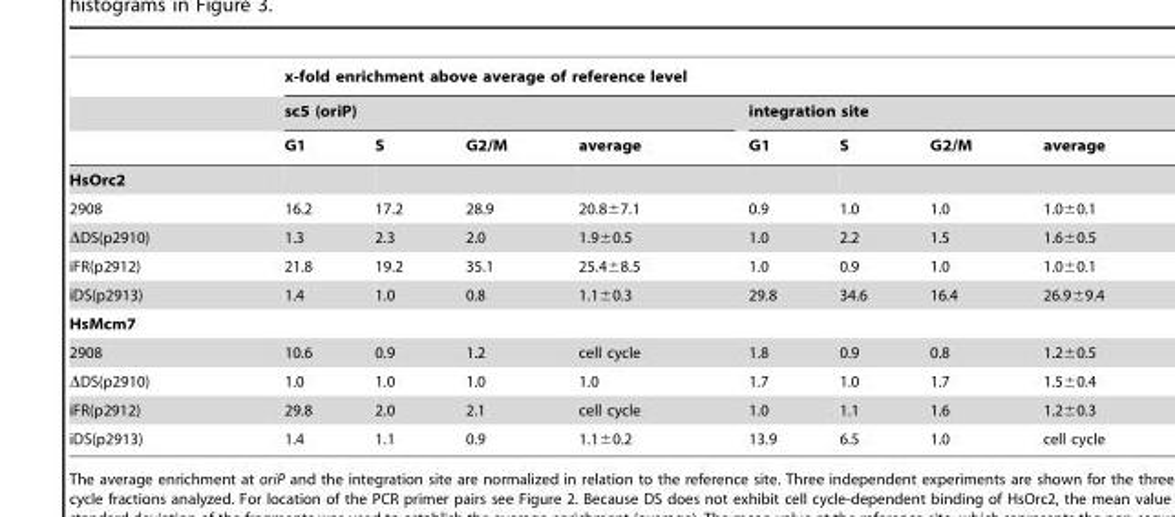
<table><thead><tr><td rowspan="3"></td><td colspan="8">x-fold enrichment above average of reference level</td></tr><tr><td colspan="4">sc5 (oriP)</td><td colspan="4">integration site</td></tr><tr><td>G1</td><td>S</td><td>G2/M</td><td>average</td><td>G1</td><td>S</td><td>G2/M</td><td>average</td></tr></thead><tbody><tr><td colspan="9">HsOrc2</td></tr><tr><td>2908</td><td>16.2</td><td>17.2</td><td>28.9</td><td>20.8±7.1</td><td>0.9</td><td>1.0</td><td>1.0</td><td>1.0±0.1</td></tr><tr><td>ΔDS(p2910)</td><td>1.3</td><td>2.3</td><td>2.0</td><td>1.9±0.5</td><td>1.0</td><td>2.2</td><td>1.5</td><td>1.6±0.5</td></tr><tr><td>iFR(p2912)</td><td>21.8</td><td>19.2</td><td>35.1</td><td>25.4±8.5</td><td>1.0</td><td>0.9</td><td>1.0</td><td>1.0±0.1</td></tr><tr><td>iDS(p2913)</td><td>1.4</td><td>1.0</td><td>0.8</td><td>1.1±0.3</td><td>29.8</td><td>34.6</td><td>16.4</td><td>26.9±9.4</td></tr><tr><td colspan="9">HsMcm7</td></tr><tr><td>2908</td><td>10.6</td><td>0.9</td><td>1.2</td><td>cell cycle</td><td>1.8</td><td>0.9</td><td>0.8</td><td>1.2±0.5</td></tr><tr><td>ΔDS(p2910)</td><td>1.0</td><td>1.0</td><td>1.0</td><td>1.0</td><td>1.7</td><td>1.0</td><td>1.7</td><td>1.5±0.4</td></tr><tr><td>iFR(p2912)</td><td>29.8</td><td>2.0</td><td>2.1</td><td>cell cycle</td><td>1.0</td><td>1.1</td><td>1.6</td><td>1.2±0.3</td></tr><tr><td>iDS(p2913)</td><td>1.4</td><td>1.1</td><td>0.9</td><td>1.1±0.2</td><td>13.9</td><td>6.5</td><td>1.0</td><td>cell cycle</td></tr></tbody></table>